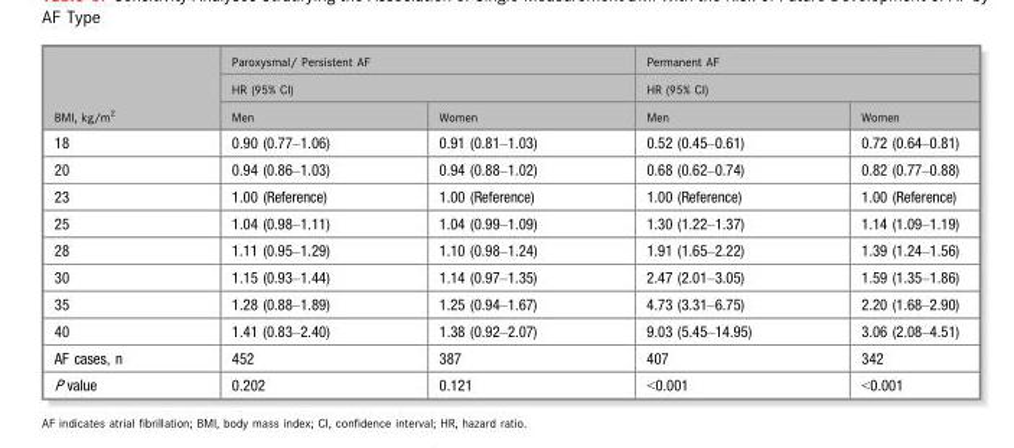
<table><thead><tr><td rowspan="3">BMI, kg/m<sup>2</sup></td><td rowspan="2" colspan="2">Paroxysmal/ Persistent AF HR (95% CI)</td><td rowspan="2" colspan="2">Permanent AF HR (95% CI)</td></tr><tr></tr><tr><td>Men</td><td>Women</td><td>Men</td><td>Women</td></tr></thead><tbody><tr><td>18</td><td>0.90 (0.77–1.06)</td><td>0.91 (0.81–1.03)</td><td>0.52 (0.45–0.61)</td><td>0.72 (0.64–0.81)</td></tr><tr><td>20</td><td>0.94 (0.86–1.03)</td><td>0.94 (0.88–1.02)</td><td>0.68 (0.62–0.74)</td><td>0.82 (0.77–0.88)</td></tr><tr><td>23</td><td>1.00 (Reference)</td><td>1.00 (Reference)</td><td>1.00 (Reference)</td><td>1.00 (Reference)</td></tr><tr><td>25</td><td>1.04 (0.98–1.11)</td><td>1.04 (0.99–1.09)</td><td>1.30 (1.22–1.37)</td><td>1.14 (1.09–1.19)</td></tr><tr><td>28</td><td>1.11 (0.95–1.29)</td><td>1.10 (0.98–1.24)</td><td>1.91 (1.65–2.22)</td><td>1.39 (1.24–1.56)</td></tr><tr><td>30</td><td>1.15 (0.93–1.44)</td><td>1.14 (0.97–1.35)</td><td>2.47 (2.01–3.05)</td><td>1.59 (1.35–1.86)</td></tr><tr><td>35</td><td>1.28 (0.88–1.89)</td><td>1.25 (0.94–1.67)</td><td>4.73 (3.31–6.75)</td><td>2.20 (1.68–2.90)</td></tr><tr><td>40</td><td>1.41 (0.83–2.40)</td><td>1.38 (0.92–2.07)</td><td>9.03 (5.45–14.95)</td><td>3.06 (2.08–4.51)</td></tr><tr><td>AF cases, n</td><td>452</td><td>387</td><td>407</td><td>342</td></tr><tr><td>P value</td><td>0.202</td><td>0.121</td><td>&lt;0.001</td><td>&lt;0.001</td></tr></tbody></table>